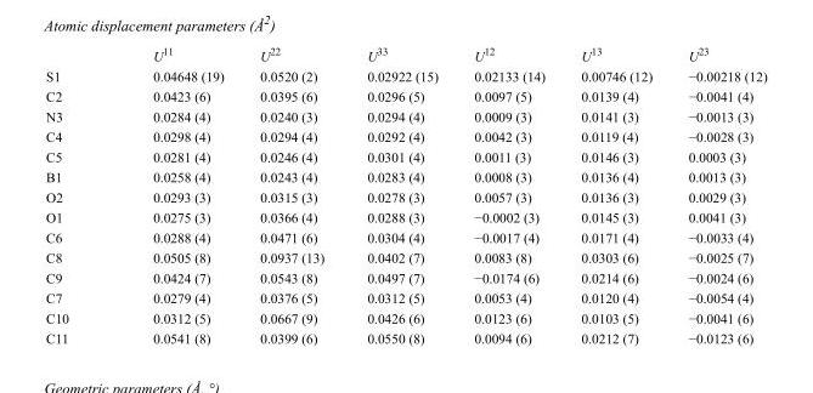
<table><thead><tr><td></td><td>U<sup>11</sup></td><td>U<sup>22</sup></td><td>U<sup>33</sup></td><td>U<sup>12</sup></td><td>U<sup>13</sup></td><td>U<sup>23</sup></td></tr></thead><tbody><tr><td>S1</td><td>0.04648 (19)</td><td>0.0520 (2)</td><td>0.02922 (15)</td><td>0.02133 (14)</td><td>0.00746 (12)</td><td>−0.00218 (12)</td></tr><tr><td>C2</td><td>0.0423 (6)</td><td>0.0395 (6)</td><td>0.0296 (5)</td><td>0.0097 (5)</td><td>0.0139 (4)</td><td>−0.0041 (4)</td></tr><tr><td>N3</td><td>0.0284 (4)</td><td>0.0240 (3)</td><td>0.0294 (4)</td><td>0.0009 (3)</td><td>0.0141 (3)</td><td>−0.0013 (3)</td></tr><tr><td>C4</td><td>0.0298 (4)</td><td>0.0294 (4)</td><td>0.0292 (4)</td><td>0.0042 (3)</td><td>0.0119 (4)</td><td>−0.0028 (3)</td></tr><tr><td>C5</td><td>0.0281 (4)</td><td>0.0246 (4)</td><td>0.0301 (4)</td><td>0.0011 (3)</td><td>0.0146 (3)</td><td>0.0003 (3)</td></tr><tr><td>B1</td><td>0.0258 (4)</td><td>0.0243 (4)</td><td>0.0283 (4)</td><td>0.0008 (3)</td><td>0.0136 (4)</td><td>0.0013 (3)</td></tr><tr><td>O2</td><td>0.0293 (3)</td><td>0.0315 (3)</td><td>0.0278 (3)</td><td>0.0057 (3)</td><td>0.0136 (3)</td><td>0.0029 (3)</td></tr><tr><td>O1</td><td>0.0275 (3)</td><td>0.0366 (4)</td><td>0.0288 (3)</td><td>−0.0002 (3)</td><td>0.0145 (3)</td><td>0.0041 (3)</td></tr><tr><td>C6</td><td>0.0288 (4)</td><td>0.0471 (6)</td><td>0.0304 (4)</td><td>−0.0017 (4)</td><td>0.0171 (4)</td><td>−0.0033 (4)</td></tr><tr><td>C8</td><td>0.0505 (8)</td><td>0.0937 (13)</td><td>0.0402 (7)</td><td>0.0083 (8)</td><td>0.0303 (6)</td><td>−0.0025 (7)</td></tr><tr><td>C9</td><td>0.0424 (7)</td><td>0.0543 (8)</td><td>0.0497 (7)</td><td>−0.0174 (6)</td><td>0.0214 (6)</td><td>−0.0024 (6)</td></tr><tr><td>C7</td><td>0.0279 (4)</td><td>0.0376 (5)</td><td>0.0312 (5)</td><td>0.0053 (4)</td><td>0.0120 (4)</td><td>−0.0054 (4)</td></tr><tr><td>C10</td><td>0.0312 (5)</td><td>0.0667 (9)</td><td>0.0426 (6)</td><td>0.0123 (6)</td><td>0.0103 (5)</td><td>−0.0041 (6)</td></tr><tr><td>C11</td><td>0.0541 (8)</td><td>0.0399 (6)</td><td>0.0550 (8)</td><td>0.0094 (6)</td><td>0.0212 (7)</td><td>−0.0123 (6)</td></tr></tbody></table>